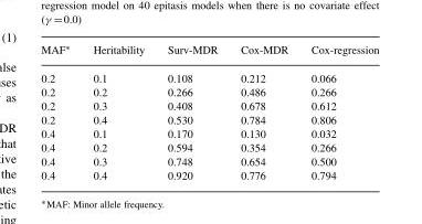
<table><thead><tr><td>MAF∗</td><td>Heritability</td><td>Surv-MDR</td><td>Cox-MDR</td><td>Cox-regression</td></tr></thead><tbody><tr><td>0.2</td><td>0.1</td><td>0.108</td><td>0.212</td><td>0.066</td></tr><tr><td>0.2</td><td>0.2</td><td>0.266</td><td>0.486</td><td>0.266</td></tr><tr><td>0.2</td><td>0.3</td><td>0.408</td><td>0.678</td><td>0.612</td></tr><tr><td>0.2</td><td>0.4</td><td>0.530</td><td>0.784</td><td>0.806</td></tr><tr><td>0.4</td><td>0.1</td><td>0.170</td><td>0.130</td><td>0.032</td></tr><tr><td>0.4</td><td>0.2</td><td>0.594</td><td>0.354</td><td>0.266</td></tr><tr><td>0.4</td><td>0.3</td><td>0.748</td><td>0.654</td><td>0.500</td></tr><tr><td>0.4</td><td>0.4</td><td>0.920</td><td>0.776</td><td>0.794</td></tr></tbody></table>